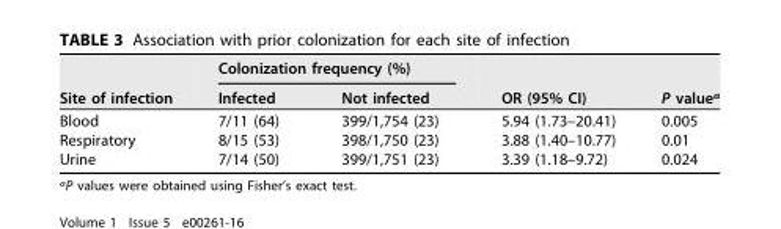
<table><thead><tr><td rowspan="2">Site of infection</td><td colspan="2">Colonization frequency (%)</td><td rowspan="2">OR (95% CI)</td><td rowspan="2">P value<sup>a</sup></td></tr><tr><td>Infected</td><td>Not infected</td></tr></thead><tbody><tr><td>Blood</td><td>7/11 (64)</td><td>399/1,754 (23)</td><td>5.94 (1.73–20.41)</td><td>0.005</td></tr><tr><td>Respiratory</td><td>8/15 (53)</td><td>398/1,750 (23)</td><td>3.88 (1.40–10.77)</td><td>0.01</td></tr><tr><td>Urine</td><td>7/14 (50)</td><td>399/1,751 (23)</td><td>3.39 (1.18–9.72)</td><td>0.024</td></tr></tbody></table>